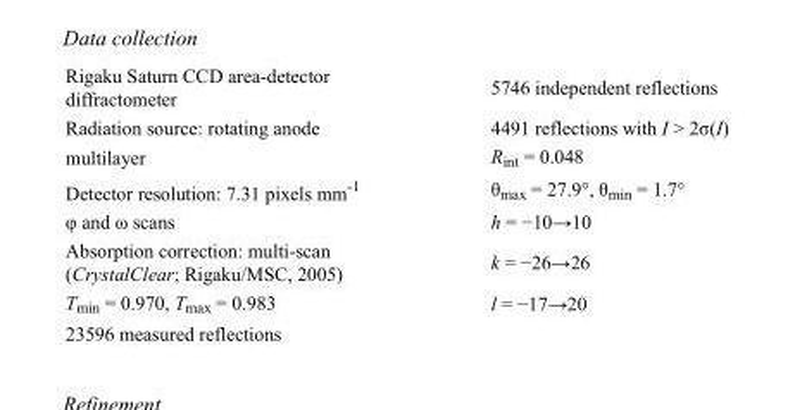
<table><tbody><tr><td>Rigaku Saturn CCD area-detector diffractometer</td><td>5746 independent reflections</td></tr><tr><td>Radiation source: rotating anode</td><td>4491 reflections with I &gt; 2σ(I)</td></tr><tr><td>multilayer</td><td>R<sub>int</sub> = 0.048</td></tr><tr><td>Detector resolution: 7.31 pixels mm<sup>-1</sup></td><td>θ<sub>max</sub> = 27.9°, θ<sub>min</sub> = 1.7°</td></tr><tr><td>φ and ω scans</td><td>h = −10→10</td></tr><tr><td>Absorption correction: multi-scan (CrystalClear; Rigaku/MSC, 2005)</td><td>k = −26→26</td></tr><tr><td>T<sub>min</sub> = 0.970, T<sub>max</sub> = 0.983</td><td>l = −17→20</td></tr><tr><td>23596 measured reflections</td><td></td></tr></tbody></table>